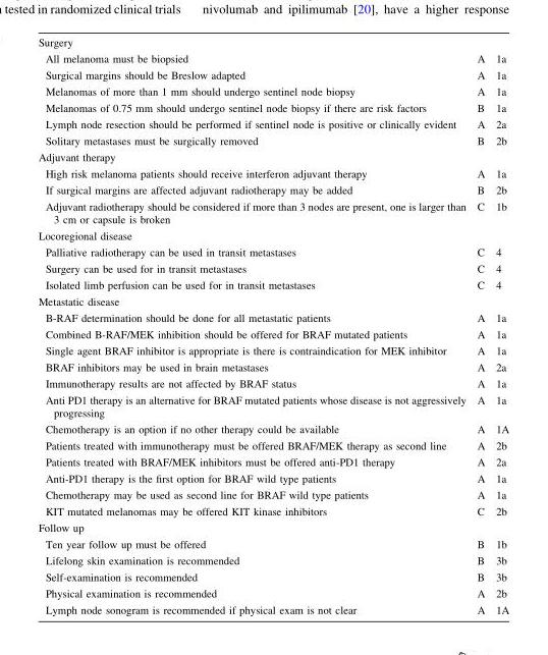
<table><tbody><tr><td colspan="3">Surgery</td></tr><tr><td>All melanoma must be biopsied</td><td>A</td><td>1a</td></tr><tr><td>Surgical margins should be Breslow adapted</td><td>A</td><td>1a</td></tr><tr><td>Melanomas of more than 1 mm should undergo sentinel node biopsy</td><td>A</td><td>1a</td></tr><tr><td>Melanomas of 0.75 mm should undergo sentinel node biopsy if there are risk factors</td><td>B</td><td>1a</td></tr><tr><td>Lymph node resection should be performed if sentinel node is positive or clinically evident</td><td>A</td><td>2a</td></tr><tr><td>Solitary metastases must be surgically removed</td><td>B</td><td>2b</td></tr><tr><td colspan="3">Adjuvant therapy</td></tr><tr><td>High risk melanoma patients should receive interferon adjuvant therapy</td><td>A</td><td>1a</td></tr><tr><td>If surgical margins are affected adjuvant radiotherapy may be added</td><td>B</td><td>2b</td></tr><tr><td>Adjuvant radiotherapy should be considered if more than 3 nodes are present, one is larger than 3 cm or capsule is broken</td><td>C</td><td>1b</td></tr><tr><td colspan="3">Locoregional disease</td></tr><tr><td>Palliative radiotherapy can be used in transit metastases</td><td>C</td><td>4</td></tr><tr><td>Surgery can be used for in transit metastases</td><td>C</td><td>4</td></tr><tr><td>Isolated limb perfusion can be used for in transit metastases</td><td>C</td><td>4</td></tr><tr><td colspan="3">Metastatic disease</td></tr><tr><td>B-RAF determination should be done for all metastatic patients</td><td>A</td><td>1a</td></tr><tr><td>Combined B-RAF/MEK inhibition should be offered for BRAF mutated patients</td><td>A</td><td>1a</td></tr><tr><td>Single agent BRAF inhibitor is appropriate is there is contraindication for MEK inhibitor</td><td>A</td><td>1a</td></tr><tr><td>BRAF inhibitors may be used in brain metastases</td><td>A</td><td>2a</td></tr><tr><td>Immunotherapy results are not affected by BRAF status</td><td>A</td><td>1a</td></tr><tr><td>Anti PD1 therapy is an alternative for BRAF mutated patients whose disease is not aggressively progressing</td><td>A</td><td>1a</td></tr><tr><td>Chemotherapy is an option if no other therapy could be available</td><td>A</td><td>1A</td></tr><tr><td>Patients treated with immunotherapy must be offered BRAF/MEK therapy as second line</td><td>A</td><td>2b</td></tr><tr><td>Patients treated with BRAF/MEK inhibitors must be offered anti-PD1 therapy</td><td>A</td><td>2a</td></tr><tr><td>Anti-PD1 therapy is the first option for BRAF wild type patients</td><td>A</td><td>1a</td></tr><tr><td>Chemotherapy may be used as second line for BRAF wild type patients</td><td>A</td><td>1a</td></tr><tr><td>KIT mutated melanomas may be offered KIT kinase inhibitors</td><td>C</td><td>2b</td></tr><tr><td colspan="3">Follow up</td></tr><tr><td>Ten year follow up must be offered</td><td>B</td><td>1b</td></tr><tr><td>Lifelong skin examination is recommended</td><td>B</td><td>3b</td></tr><tr><td>Self-examination is recommended</td><td>B</td><td>3b</td></tr><tr><td>Physical examination is recommended</td><td>A</td><td>2b</td></tr><tr><td>Lymph node sonogram is recommended if physical exam is not clear</td><td>A</td><td>1A</td></tr></tbody></table>